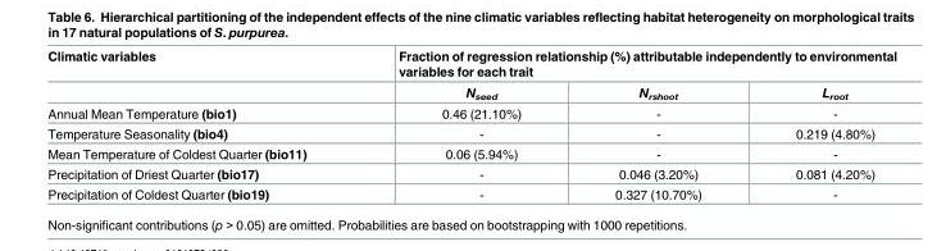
<table><thead><tr><td rowspan="2">Climatic variables</td><td colspan="3">Fraction of regression relationship (%) attributable independently to environmental variables for each trait</td></tr><tr><td>N<sub>seed</sub></td><td>N<sub>rshoot</sub></td><td>L<sub>root</sub></td></tr></thead><tbody><tr><td>Annual Mean Temperature (bio1)</td><td>0.46 (21.10%)</td><td>-</td><td>-</td></tr><tr><td>Temperature Seasonality (bio4)</td><td>-</td><td>-</td><td>0.219 (4.80%)</td></tr><tr><td>Mean Temperature of Coldest Quarter (bio11)</td><td>0.06 (5.94%)</td><td>-</td><td>-</td></tr><tr><td>Precipitation of Driest Quarter (bio17)</td><td>-</td><td>0.046 (3.20%)</td><td>0.081 (4.20%)</td></tr><tr><td>Precipitation of Coldest Quarter (bio19)</td><td>-</td><td>0.327 (10.70%)</td><td>-</td></tr></tbody></table>